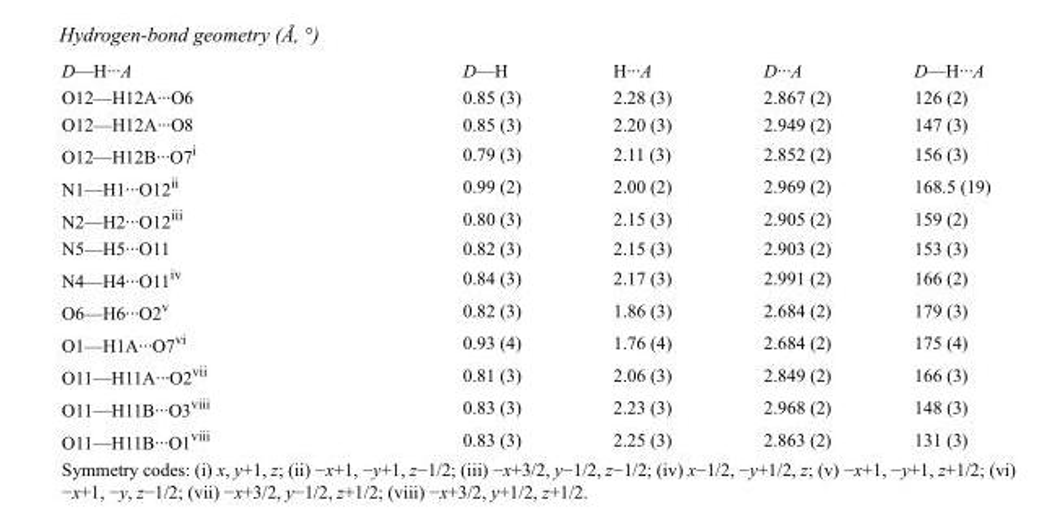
<table><tbody><tr><td>D—H···A</td><td>D—H</td><td>H···A</td><td>D···A</td><td>D—H···A</td></tr><tr><td>O12—H12A···O6</td><td>0.85 (3)</td><td>2.28 (3)</td><td>2.867 (2)</td><td>126 (2)</td></tr><tr><td>O12—H12A···O8</td><td>0.85 (3)</td><td>2.20 (3)</td><td>2.949 (2)</td><td>147 (3)</td></tr><tr><td>O12—H12B···O7<sup>i</sup></td><td>0.79 (3)</td><td>2.11 (3)</td><td>2.852 (2)</td><td>156 (3)</td></tr><tr><td>N1—H1···O12<sup>ii</sup></td><td>0.99 (2)</td><td>2.00 (2)</td><td>2.969 (2)</td><td>168.5 (19)</td></tr><tr><td>N2—H2···O12<sup>iii</sup></td><td>0.80 (3)</td><td>2.15 (3)</td><td>2.905 (2)</td><td>159 (2)</td></tr><tr><td>N5—H5···O11</td><td>0.82 (3)</td><td>2.15 (3)</td><td>2.903 (2)</td><td>153 (3)</td></tr><tr><td>N4—H4···O11<sup>iv</sup></td><td>0.84 (3)</td><td>2.17 (3)</td><td>2.991 (2)</td><td>166 (2)</td></tr><tr><td>O6—H6···O2<sup>v</sup></td><td>0.82 (3)</td><td>1.86 (3)</td><td>2.684 (2)</td><td>179 (3)</td></tr><tr><td>O1—H1A···O7<sup>vi</sup></td><td>0.93 (4)</td><td>1.76 (4)</td><td>2.684 (2)</td><td>175 (4)</td></tr><tr><td>O11—H11A···O2<sup>vii</sup></td><td>0.81 (3)</td><td>2.06 (3)</td><td>2.849 (2)</td><td>166 (3)</td></tr><tr><td>O11—H11B···O3<sup>viii</sup></td><td>0.83 (3)</td><td>2.23 (3)</td><td>2.968 (2)</td><td>148 (3)</td></tr><tr><td>O11—H11B···O1<sup>viii</sup></td><td>0.83 (3)</td><td>2.25 (3)</td><td>2.863 (2)</td><td>131 (3)</td></tr></tbody></table>